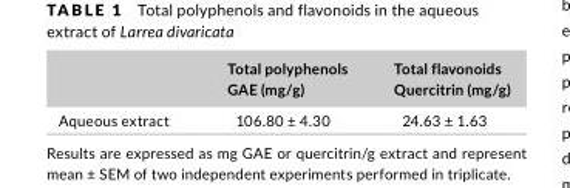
<table><thead><tr><td></td><td>Total polyphenols GAE (mg/g)</td><td>Total flavonoids Quercitrin (mg/g)</td></tr></thead><tbody><tr><td>Aqueous extract</td><td>106.80 ± 4.30</td><td>24.63 ± 1.63</td></tr></tbody></table>